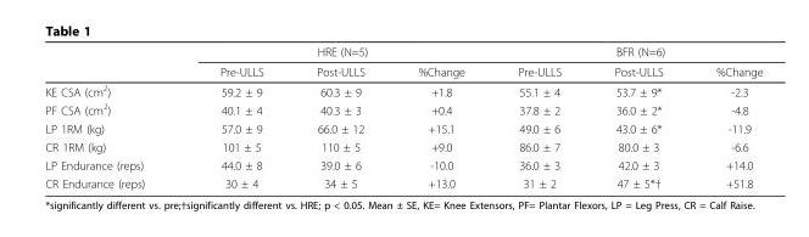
<table><thead><tr><td rowspan="2"></td><td colspan="3">HRE (N=5)</td><td colspan="3">BFR (N=6)</td></tr><tr><td>Pre-ULLS</td><td>Post-ULLS</td><td>%Change</td><td>Pre-ULLS</td><td>Post-ULLS</td><td>%Change</td></tr></thead><tbody><tr><td>KE CSA (cm<sup>2</sup>)</td><td>59.2 ± 9</td><td>60.3 ± 9</td><td>+1.8</td><td>55.1 ± 4</td><td>53.7 ± 9*</td><td>-2.3</td></tr><tr><td>PF CSA (cm<sup>2</sup>)</td><td>40.1 ± 4</td><td>40.3 ± 3</td><td>+0.4</td><td>37.8 ± 2</td><td>36.0 ± 2*</td><td>-4.8</td></tr><tr><td>LP 1RM (kg)</td><td>57.0 ± 9</td><td>66.0 ± 12</td><td>+15.1</td><td>49.0 ± 6</td><td>43.0 ± 6*</td><td>-11.9</td></tr><tr><td>CR 1RM (kg)</td><td>101 ± 5</td><td>110 ± 5</td><td>+9.0</td><td>86.0 ± 7</td><td>80.0 ± 3</td><td>-6.6</td></tr><tr><td>LP Endurance (reps)</td><td>44.0 ± 8</td><td>39.0 ± 6</td><td>-10.0</td><td>36.0 ± 3</td><td>42.0 ± 3</td><td>+14.0</td></tr><tr><td>CR Endurance (reps)</td><td>30 ± 4</td><td>34 ± 5</td><td>+13.0</td><td>31 ± 2</td><td>47 ± 5*†</td><td>+51.8</td></tr></tbody></table>